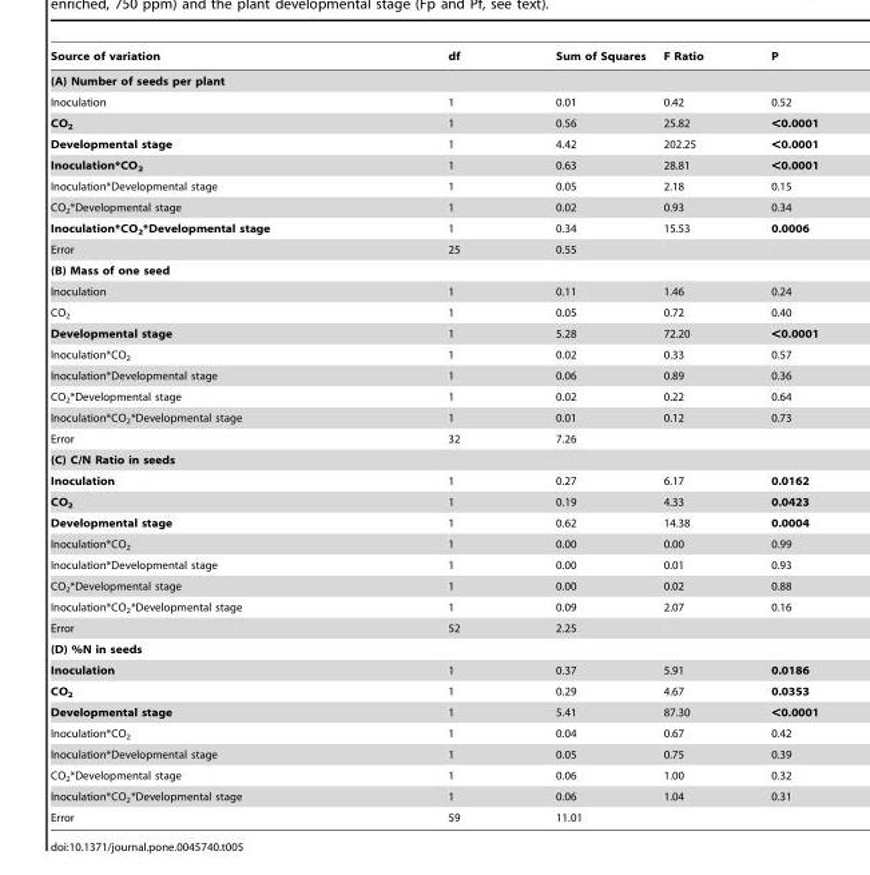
<table><thead><tr><td>Source of variation</td><td>df</td><td>Sum of Squares</td><td>F Ratio</td><td>P</td></tr></thead><tbody><tr><td colspan="5">(A) Number of seeds per plant</td></tr><tr><td>Inoculation</td><td>1</td><td>0.01</td><td>0.42</td><td>0.52</td></tr><tr><td>CO<sub>2</sub></td><td>1</td><td>0.56</td><td>25.82</td><td>&lt;0.0001</td></tr><tr><td>Developmental stage</td><td>1</td><td>4.42</td><td>202.25</td><td>&lt;0.0001</td></tr><tr><td>Inoculation*CO<sub>2</sub></td><td>1</td><td>0.63</td><td>28.81</td><td>&lt;0.0001</td></tr><tr><td>Inoculation*Developmental stage</td><td>1</td><td>0.05</td><td>2.18</td><td>0.15</td></tr><tr><td>CO<sub>2</sub>*Developmental stage</td><td>1</td><td>0.02</td><td>0.93</td><td>0.34</td></tr><tr><td>Inoculation*CO<sub>2</sub>*Developmental stage</td><td>1</td><td>0.34</td><td>15.53</td><td>0.0006</td></tr><tr><td>Error</td><td>25</td><td>0.55</td><td></td><td></td></tr><tr><td colspan="5">(B) Mass of one seed</td></tr><tr><td>Inoculation</td><td>1</td><td>0.11</td><td>1.46</td><td>0.24</td></tr><tr><td>CO<sub>2</sub></td><td>1</td><td>0.05</td><td>0.72</td><td>0.40</td></tr><tr><td>Developmental stage</td><td>1</td><td>5.28</td><td>72.20</td><td>&lt;0.0001</td></tr><tr><td>Inoculation*CO<sub>2</sub></td><td>1</td><td>0.02</td><td>0.33</td><td>0.57</td></tr><tr><td>Inoculation*Developmental stage</td><td>1</td><td>0.06</td><td>0.89</td><td>0.36</td></tr><tr><td>CO<sub>2</sub>*Developmental stage</td><td>1</td><td>0.02</td><td>0.22</td><td>0.64</td></tr><tr><td>Inoculation*CO<sub>2</sub>*Developmental stage</td><td>1</td><td>0.01</td><td>0.12</td><td>0.73</td></tr><tr><td>Error</td><td>32</td><td>7.26</td><td></td><td></td></tr><tr><td colspan="5">(C) C/N Ratio in seeds</td></tr><tr><td>Inoculation</td><td>1</td><td>0.27</td><td>6.17</td><td>0.0162</td></tr><tr><td>CO<sub>2</sub></td><td>1</td><td>0.19</td><td>4.33</td><td>0.0423</td></tr><tr><td>Developmental stage</td><td>1</td><td>0.62</td><td>14.38</td><td>0.0004</td></tr><tr><td>Inoculation*CO<sub>2</sub></td><td>1</td><td>0.00</td><td>0.00</td><td>0.99</td></tr><tr><td>Inoculation*Developmental stage</td><td>1</td><td>0.00</td><td>0.01</td><td>0.93</td></tr><tr><td>CO<sub>2</sub>*Developmental stage</td><td>1</td><td>0.00</td><td>0.02</td><td>0.88</td></tr><tr><td>Inoculation*CO<sub>2</sub>*Developmental stage</td><td>1</td><td>0.09</td><td>2.07</td><td>0.16</td></tr><tr><td>Error</td><td>52</td><td>2.25</td><td></td><td></td></tr><tr><td colspan="5">(D) %N in seeds</td></tr><tr><td>Inoculation</td><td>1</td><td>0.37</td><td>5.91</td><td>0.0186</td></tr><tr><td>CO<sub>2</sub></td><td>1</td><td>0.29</td><td>4.67</td><td>0.0353</td></tr><tr><td>Developmental stage</td><td>1</td><td>5.41</td><td>87.30</td><td>&lt;0.0001</td></tr><tr><td>Inoculation*CO<sub>2</sub></td><td>1</td><td>0.04</td><td>0.67</td><td>0.42</td></tr><tr><td>Inoculation*Developmental stage</td><td>1</td><td>0.05</td><td>0.75</td><td>0.39</td></tr><tr><td>CO<sub>2</sub>*Developmental stage</td><td>1</td><td>0.06</td><td>1.00</td><td>0.32</td></tr><tr><td>Inoculation*CO<sub>2</sub>*Developmental stage</td><td>1</td><td>0.06</td><td>1.04</td><td>0.31</td></tr><tr><td>Error</td><td>59</td><td>11.01</td><td></td><td></td></tr></tbody></table>